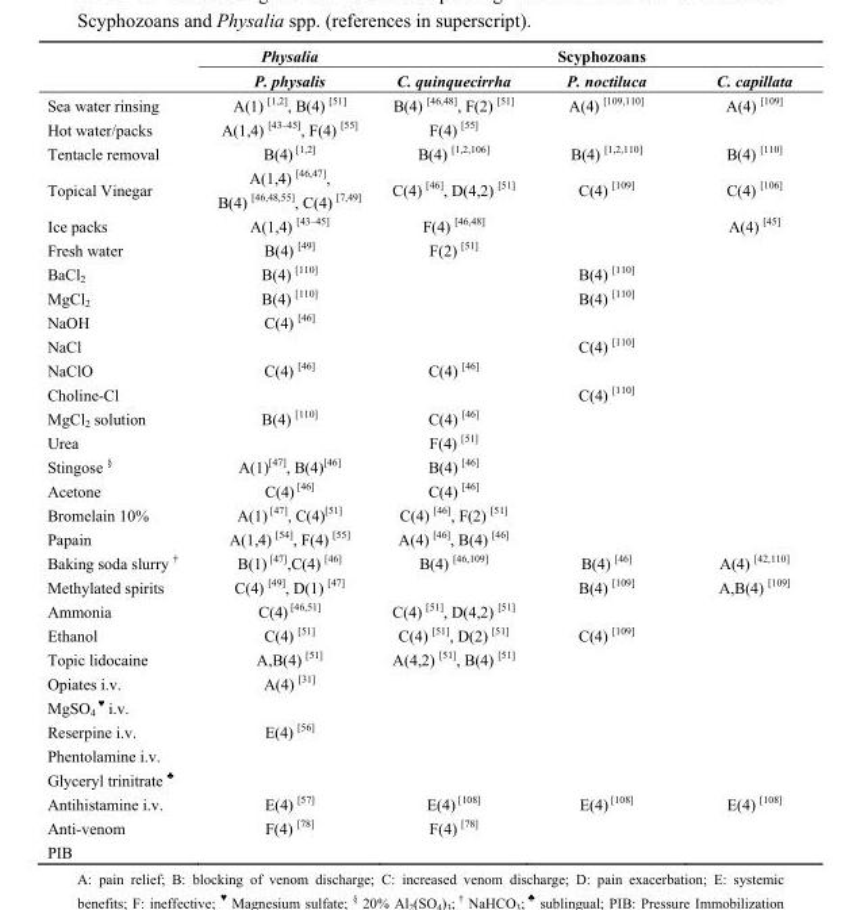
<table><thead><tr><td rowspan="2"></td><td rowspan="2">Physalia P. physalis</td><td colspan="3">Scyphozoans</td></tr><tr><td>C. quinquecirrha</td><td>P. noctiluca</td><td>C. capillata</td></tr></thead><tbody><tr><td>Sea water rinsing</td><td>A(1) <sup>[1,2]</sup>, B(4) <sup>[51]</sup></td><td>B(4) <sup>[46,48]</sup>, F(2) <sup>[51]</sup></td><td>A(4) <sup>[109,110]</sup></td><td>A(4) <sup>[109]</sup></td></tr><tr><td>Hot water/packs</td><td>A(1,4) <sup>[43–45]</sup>, F(4) <sup>[55]</sup></td><td>F(4) <sup>[55]</sup></td><td></td><td></td></tr><tr><td>Tentacle removal</td><td>B(4) <sup>[1,2]</sup></td><td>B(4) <sup>[1,2,106]</sup></td><td>B(4) <sup>[1,2,110]</sup></td><td>B(4) <sup>[110]</sup></td></tr><tr><td>Topical Vinegar</td><td>A(1,4) <sup>[46,47]</sup>, B(4) <sup>[46,48,55]</sup>, C(4) <sup>[7,49]</sup></td><td>C(4) <sup>[46]</sup>, D(4,2) <sup>[51]</sup></td><td>C(4) <sup>[109]</sup></td><td>C(4) <sup>[106]</sup></td></tr><tr><td>Ice packs</td><td>A(1,4) <sup>[43–45]</sup></td><td>F(4) <sup>[46,48]</sup></td><td></td><td>A(4) <sup>[45]</sup></td></tr><tr><td>Fresh water</td><td>B(4) <sup>[49]</sup></td><td>F(2) <sup>[51]</sup></td><td></td><td></td></tr><tr><td>BaCl<sub>2</sub></td><td>B(4) <sup>[110]</sup></td><td></td><td>B(4) <sup>[110]</sup></td><td></td></tr><tr><td>MgCl<sub>2</sub></td><td>B(4) <sup>[110]</sup></td><td></td><td>B(4) <sup>[110]</sup></td><td></td></tr><tr><td>NaOH</td><td>C(4) <sup>[46]</sup></td><td></td><td></td><td></td></tr><tr><td>NaCl</td><td></td><td></td><td>C(4) <sup>[110]</sup></td><td></td></tr><tr><td>NaClO</td><td>C(4) <sup>[46]</sup></td><td>C(4) <sup>[46]</sup></td><td></td><td></td></tr><tr><td>Choline-Cl</td><td></td><td></td><td>C(4) <sup>[110]</sup></td><td></td></tr><tr><td>MgCl<sub>2</sub> solution</td><td>B(4) <sup>[110]</sup></td><td>C(4) <sup>[46]</sup></td><td></td><td></td></tr><tr><td>Urea</td><td></td><td>F(4) <sup>[51]</sup></td><td></td><td></td></tr><tr><td>Stingose <sup>§</sup></td><td>A(1)<sup>[47]</sup>, B(4)<sup>[46]</sup></td><td>B(4) <sup>[46]</sup></td><td></td><td></td></tr><tr><td>Acetone</td><td>C(4) <sup>[46]</sup></td><td>C(4) <sup>[46]</sup></td><td></td><td></td></tr><tr><td>Bromelain 10%</td><td>A(1) <sup>[47]</sup>, C(4)<sup>[51]</sup></td><td>C(4) <sup>[46]</sup>, F(2) <sup>[51]</sup></td><td></td><td></td></tr><tr><td>Papain</td><td>A(1,4) <sup>[54]</sup>, F(4) <sup>[55]</sup></td><td>A(4) <sup>[46]</sup>, B(4) <sup>[46]</sup></td><td></td><td></td></tr><tr><td>Baking soda slurry <sup>†</sup></td><td>B(1) <sup>[47]</sup>,C(4) <sup>[46]</sup></td><td>B(4) <sup>[46,109]</sup></td><td>B(4) <sup>[46]</sup></td><td>A(4) <sup>[42,110]</sup></td></tr><tr><td>Methylated spirits</td><td>C(4) <sup>[49]</sup>, D(1) <sup>[47]</sup></td><td></td><td>B(4) <sup>[109]</sup></td><td>A,B(4) <sup>[109]</sup></td></tr><tr><td>Ammonia</td><td>C(4) <sup>[46,51]</sup></td><td>C(4) <sup>[51]</sup>, D(4,2) <sup>[51]</sup></td><td></td><td></td></tr><tr><td>Ethanol</td><td>C(4) <sup>[51]</sup></td><td>C(4) <sup>[51]</sup>, D(2) <sup>[51]</sup></td><td>C(4) <sup>[109]</sup></td><td></td></tr><tr><td>Topic lidocaine</td><td>A,B(4) <sup>[51]</sup></td><td>A(4,2) <sup>[51]</sup>, B(4) <sup>[51]</sup></td><td></td><td></td></tr><tr><td>Opiates i.v.</td><td>A(4) <sup>[31]</sup></td><td></td><td></td><td></td></tr><tr><td colspan="5">MgSO<sub>4</sub> <sup>♥</sup> i.v.</td></tr><tr><td>Reserpine i.v.</td><td>E(4) <sup>[56]</sup></td><td></td><td></td><td></td></tr><tr><td colspan="5">Phentolamine i.v.</td></tr><tr><td colspan="5">Glyceryl trinitrate <sup>♣</sup></td></tr><tr><td>Antihistamine i.v.</td><td>E(4) <sup>[57]</sup></td><td>E(4) <sup>[108]</sup></td><td>E(4) <sup>[108]</sup></td><td>E(4) <sup>[108]</sup></td></tr><tr><td>Anti-venom</td><td>F(4) <sup>[78]</sup></td><td>F(4) <sup>[78]</sup></td><td></td><td></td></tr><tr><td>PIB</td><td></td><td></td><td></td><td></td></tr></tbody></table>